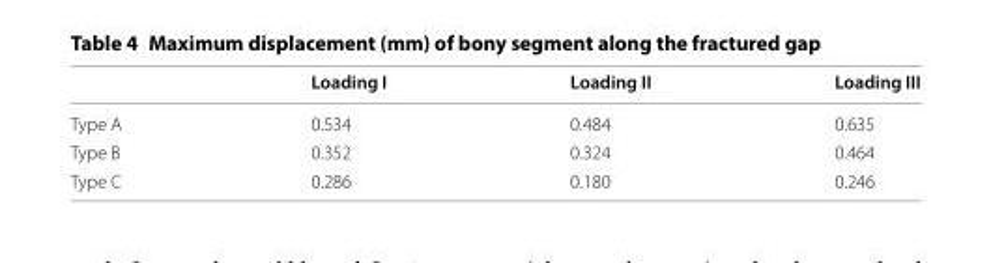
<table><thead><tr><td></td><td>Loading I</td><td>Loading II</td><td>Loading III</td></tr></thead><tbody><tr><td>Type A</td><td>0.534</td><td>0.484</td><td>0.635</td></tr><tr><td>Type B</td><td>0.352</td><td>0.324</td><td>0.464</td></tr><tr><td>Type C</td><td>0.286</td><td>0.180</td><td>0.246</td></tr></tbody></table>